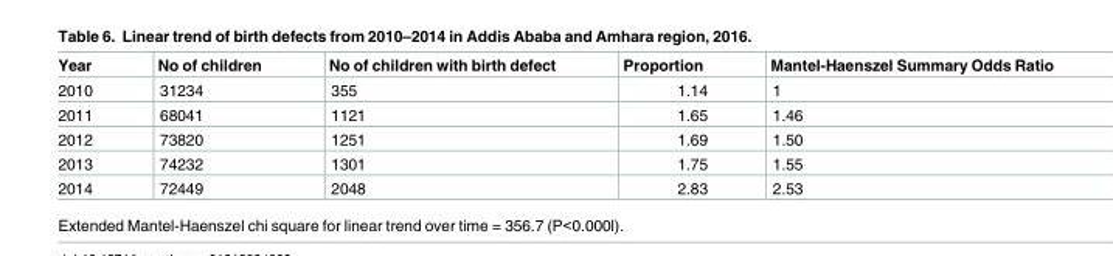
<table><thead><tr><td>Year</td><td>No of children</td><td>No of children with birth defect</td><td>Proportion</td><td>Mantel-Haenszel Summary Odds Ratio</td></tr></thead><tbody><tr><td>2010</td><td>31234</td><td>355</td><td>1.14</td><td>1</td></tr><tr><td>2011</td><td>68041</td><td>1121</td><td>1.65</td><td>1.46</td></tr><tr><td>2012</td><td>73820</td><td>1251</td><td>1.69</td><td>1.50</td></tr><tr><td>2013</td><td>74232</td><td>1301</td><td>1.75</td><td>1.55</td></tr><tr><td>2014</td><td>72449</td><td>2048</td><td>2.83</td><td>2.53</td></tr></tbody></table>